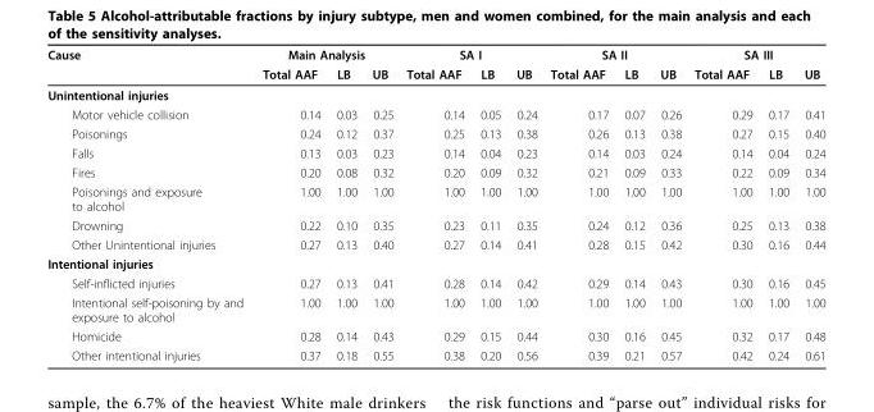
<table><thead><tr><td rowspan="2">Cause</td><td colspan="3">Main Analysis</td><td colspan="3">SA I</td><td colspan="3">SA II</td><td colspan="3">SA III</td></tr><tr><td>Total AAF</td><td>LB</td><td>UB</td><td>Total AAF</td><td>LB</td><td>UB</td><td>Total AAF</td><td>LB</td><td>UB</td><td>Total AAF</td><td>LB</td><td>UB</td></tr></thead><tbody><tr><td colspan="13">Unintentional injuries</td></tr><tr><td>Motor vehicle collision</td><td>0.14</td><td>0.03</td><td>0.25</td><td>0.14</td><td>0.05</td><td>0.24</td><td>0.17</td><td>0.07</td><td>0.26</td><td>0.29</td><td>0.17</td><td>0.41</td></tr><tr><td>Poisonings</td><td>0.24</td><td>0.12</td><td>0.37</td><td>0.25</td><td>0.13</td><td>0.38</td><td>0.26</td><td>0.13</td><td>0.38</td><td>0.27</td><td>0.15</td><td>0.40</td></tr><tr><td>Falls</td><td>0.13</td><td>0.03</td><td>0.23</td><td>0.14</td><td>0.04</td><td>0.23</td><td>0.14</td><td>0.03</td><td>0.24</td><td>0.14</td><td>0.04</td><td>0.24</td></tr><tr><td>Fires</td><td>0.20</td><td>0.08</td><td>0.32</td><td>0.20</td><td>0.09</td><td>0.32</td><td>0.21</td><td>0.09</td><td>0.33</td><td>0.22</td><td>0.09</td><td>0.34</td></tr><tr><td>Poisonings and exposure to alcohol</td><td>1.00</td><td>1.00</td><td>1.00</td><td>1.00</td><td>1.00</td><td>1.00</td><td>1.00</td><td>1.00</td><td>1.00</td><td>1.00</td><td>1.00</td><td>1.00</td></tr><tr><td>Drowning</td><td>0.22</td><td>0.10</td><td>0.35</td><td>0.23</td><td>0.11</td><td>0.35</td><td>0.24</td><td>0.12</td><td>0.36</td><td>0.25</td><td>0.13</td><td>0.38</td></tr><tr><td>Other Unintentional injuries</td><td>0.27</td><td>0.13</td><td>0.40</td><td>0.27</td><td>0.14</td><td>0.41</td><td>0.28</td><td>0.15</td><td>0.42</td><td>0.30</td><td>0.16</td><td>0.44</td></tr><tr><td colspan="13">Intentional injuries</td></tr><tr><td>Self-inflicted injuries</td><td>0.27</td><td>0.13</td><td>0.41</td><td>0.28</td><td>0.14</td><td>0.42</td><td>0.29</td><td>0.14</td><td>0.43</td><td>0.30</td><td>0.16</td><td>0.45</td></tr><tr><td>Intentional self-poisoning by and exposure to alcohol</td><td>1.00</td><td>1.00</td><td>1.00</td><td>1.00</td><td>1.00</td><td>1.00</td><td>1.00</td><td>1.00</td><td>1.00</td><td>1.00</td><td>1.00</td><td>1.00</td></tr><tr><td>Homicide</td><td>0.28</td><td>0.14</td><td>0.43</td><td>0.29</td><td>0.15</td><td>0.44</td><td>0.30</td><td>0.16</td><td>0.45</td><td>0.32</td><td>0.17</td><td>0.48</td></tr><tr><td>Other intentional injuries</td><td>0.37</td><td>0.18</td><td>0.55</td><td>0.38</td><td>0.20</td><td>0.56</td><td>0.39</td><td>0.21</td><td>0.57</td><td>0.42</td><td>0.24</td><td>0.61</td></tr></tbody></table>